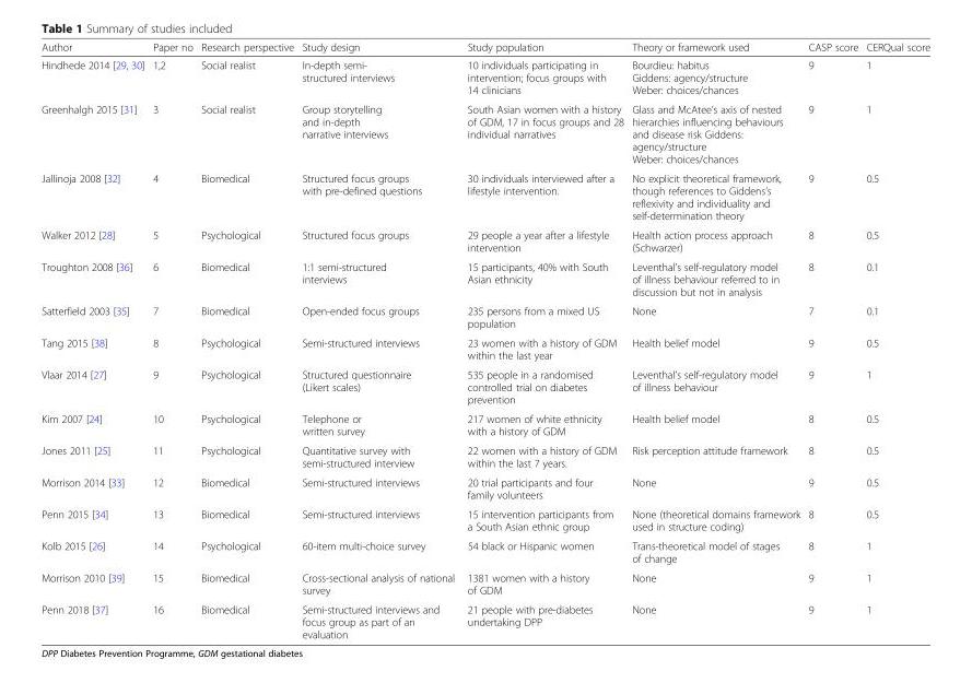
<table><thead><tr><td>Author</td><td>Paper no</td><td>Research perspective</td><td>Study design</td><td>Study population</td><td>Theory or framework used</td><td>CASP score</td><td>CERQual score</td></tr></thead><tbody><tr><td>Hindhede 2014 [29, 30]</td><td>1,2</td><td>Social realist</td><td>In-depth semi- structured interviews</td><td>10 individuals participating in intervention; focus groups with 14 clinicians</td><td>Bourdieu: habitus Giddens: agency/structure Weber: choices/chances</td><td>9</td><td>1</td></tr><tr><td>Greenhalgh 2015 [31]</td><td>3</td><td>Social realist</td><td>Group storytelling and in-depth narrative interviews</td><td>South Asian women with a history of GDM, 17 in focus groups and 28 individual narratives</td><td>Glass and McAtee’s axis of nested hierarchies influencing behaviours and disease risk Giddens: agency/structure Weber: choices/chances</td><td>9</td><td>1</td></tr><tr><td>Jallinoja 2008 [32]</td><td>4</td><td>Biomedical</td><td>Structured focus groups with pre-defined questions</td><td>30 individuals interviewed after a lifestyle intervention.</td><td>No explicit theoretical framework, though references to Giddens’s reflexivity and individuality and self-determination theory</td><td>9</td><td>0.5</td></tr><tr><td>Walker 2012 [28]</td><td>5</td><td>Psychological</td><td>Structured focus groups</td><td>29 people a year after a lifestyle intervention</td><td>Health action process approach (Schwarzer)</td><td>8</td><td>0.5</td></tr><tr><td>Troughton 2008 [36]</td><td>6</td><td>Biomedical</td><td>1:1 semi-structured interviews</td><td>15 participants, 40% with South Asian ethnicity</td><td>Leventhal’s self-regulatory model of illness behaviour referred to in discussion but not in analysis</td><td>8</td><td>0.1</td></tr><tr><td>Satterfield 2003 [35]</td><td>7</td><td>Biomedical</td><td>Open-ended focus groups</td><td>235 persons from a mixed US population</td><td>None</td><td>7</td><td>0.1</td></tr><tr><td>Tang 2015 [38]</td><td>8</td><td>Psychological</td><td>Semi-structured interviews</td><td>23 women with a history of GDM within the last year</td><td>Health belief model</td><td>9</td><td>0.5</td></tr><tr><td>Vlaar 2014 [27]</td><td>9</td><td>Psychological</td><td>Structured questionnaire (Likert scales)</td><td>535 people in a randomised controlled trial on diabetes prevention</td><td>Leventhal’s self-regulatory model of illness behaviour</td><td>9</td><td>1</td></tr><tr><td>Kim 2007 [24]</td><td>10</td><td>Psychological</td><td>Telephone or written survey</td><td>217 women of white ethnicity with a history of GDM</td><td>Health belief model</td><td>8</td><td>0.5</td></tr><tr><td>Jones 2011 [25]</td><td>11</td><td>Psychological</td><td>Quantitative survey with semi-structured interview</td><td>22 women with a history of GDM within the last 7 years.</td><td>Risk perception attitude framework</td><td>8</td><td>0.5</td></tr><tr><td>Morrison 2014 [33]</td><td>12</td><td>Biomedical</td><td>Semi-structured interviews</td><td>20 trial participants and four family volunteers</td><td>None</td><td>9</td><td>0.5</td></tr><tr><td>Penn 2015 [34]</td><td>13</td><td>Biomedical</td><td>Semi-structured interviews</td><td>15 intervention participants from a South Asian ethnic group</td><td>None (theoretical domains framework used in structure coding)</td><td>8</td><td>0.5</td></tr><tr><td>Kolb 2015 [26]</td><td>14</td><td>Psychological</td><td>60-item multi-choice survey</td><td>54 black or Hispanic women</td><td>Trans-theoretical model of stages of change</td><td>8</td><td>1</td></tr><tr><td>Morrison 2010 [39]</td><td>15</td><td>Biomedical</td><td>Cross-sectional analysis of national survey</td><td>1381 women with a history of GDM</td><td>None</td><td>9</td><td>1</td></tr><tr><td>Penn 2018 [37]</td><td>16</td><td>Biomedical</td><td>Semi-structured interviews and focus group as part of an evaluation</td><td>21 people with pre-diabetes undertaking DPP</td><td>None</td><td>9</td><td>1</td></tr></tbody></table>